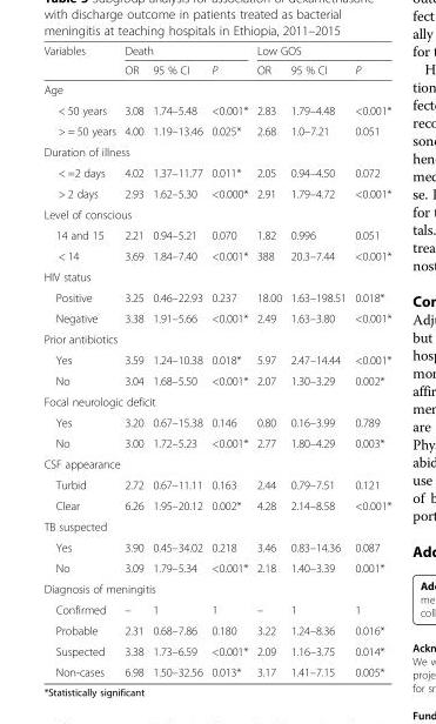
<table><thead><tr><td rowspan="2">Variables</td><td colspan="3">Death</td><td colspan="3">Low GOS</td></tr><tr><td>OR</td><td>95 % CI</td><td>P</td><td>OR</td><td>95 % CI</td><td>P</td></tr></thead><tbody><tr><td colspan="7">Age</td></tr><tr><td>&lt; 50 years</td><td>3.08</td><td>1.74–5.48</td><td>&lt;0.001*</td><td>2.83</td><td>1.79–4.48</td><td>&lt;0.001*</td></tr><tr><td>&gt; = 50 years</td><td>4.00</td><td>1.19–13.46</td><td>0.025*</td><td>2.68</td><td>1.0–7.21</td><td>0.051</td></tr><tr><td colspan="7">Duration of illness</td></tr><tr><td>&lt; =2 days</td><td>4.02</td><td>1.37–11.77</td><td>0.011*</td><td>2.05</td><td>0.94–4.50</td><td>0.072</td></tr><tr><td>&gt; 2 days</td><td>2.93</td><td>1.62–5.30</td><td>&lt;0.000*</td><td>2.91</td><td>1.79–4.72</td><td>&lt;0.001*</td></tr><tr><td colspan="7">Level of conscious</td></tr><tr><td>14 and 15</td><td>2.21</td><td>0.94–5.21</td><td>0.070</td><td>1.82</td><td>0.996</td><td>0.051</td></tr><tr><td>&lt; 14</td><td>3.69</td><td>1.84–7.40</td><td>&lt;0.001*</td><td>388</td><td>20.3–7.44</td><td>&lt;0.001*</td></tr><tr><td colspan="7">HIV status</td></tr><tr><td>Positive</td><td>3.25</td><td>0.46–22.93</td><td>0.237</td><td>18.00</td><td>1.63–198.51</td><td>0.018*</td></tr><tr><td>Negative</td><td>3.38</td><td>1.91–5.66</td><td>&lt;0.001*</td><td>2.49</td><td>1.63–3.80</td><td>&lt;0.001*</td></tr><tr><td colspan="7">Prior antibiotics</td></tr><tr><td>Yes</td><td>3.59</td><td>1.24–10.38</td><td>0.018*</td><td>5.97</td><td>2.47–14.44</td><td>&lt;0.001*</td></tr><tr><td>No</td><td>3.04</td><td>1.68–5.50</td><td>&lt;0.001*</td><td>2.07</td><td>1.30–3.29</td><td>0.002*</td></tr><tr><td colspan="7">Focal neurologic deficit</td></tr><tr><td>Yes</td><td>3.20</td><td>0.67–15.38</td><td>0.146</td><td>0.80</td><td>0.16–3.99</td><td>0.789</td></tr><tr><td>No</td><td>3.00</td><td>1.72–5.23</td><td>&lt;0.001*</td><td>2.77</td><td>1.80–4.29</td><td>0.003*</td></tr><tr><td colspan="7">CSF appearance</td></tr><tr><td>Turbid</td><td>2.72</td><td>0.67–11.11</td><td>0.163</td><td>2.44</td><td>0.79–7.51</td><td>0.121</td></tr><tr><td>Clear</td><td>6.26</td><td>1.95–20.12</td><td>0.002*</td><td>4.28</td><td>2.14–8.58</td><td>&lt;0.001*</td></tr><tr><td colspan="7">TB suspected</td></tr><tr><td>Yes</td><td>3.90</td><td>0.45–34.02</td><td>0.218</td><td>3.46</td><td>0.83–14.36</td><td>0.087</td></tr><tr><td>No</td><td>3.09</td><td>1.79–5.34</td><td>&lt;0.001*</td><td>2.18</td><td>1.40–3.39</td><td>0.001*</td></tr><tr><td colspan="7">Diagnosis of meningitis</td></tr><tr><td>Confirmed</td><td>–</td><td>1</td><td>1</td><td>–</td><td>1</td><td>1</td></tr><tr><td>Probable</td><td>2.31</td><td>0.68–7.86</td><td>0.180</td><td>3.22</td><td>1.24–8.36</td><td>0.016*</td></tr><tr><td>Suspected</td><td>3.38</td><td>1.73–6.59</td><td>&lt;0.001*</td><td>2.09</td><td>1.16–3.75</td><td>0.014*</td></tr><tr><td>Non-cases</td><td>6.98</td><td>1.50–32.56</td><td>0.013*</td><td>3.17</td><td>1.41–7.15</td><td>0.005*</td></tr></tbody></table>